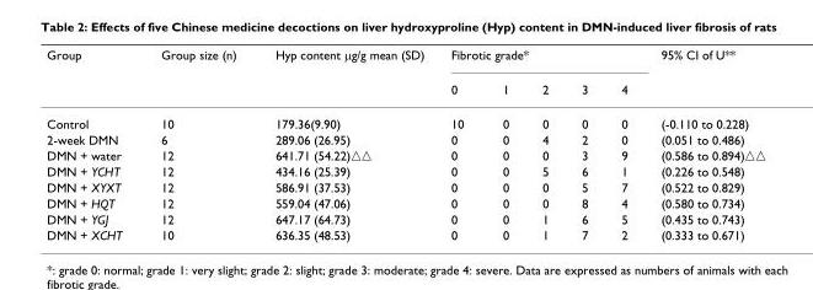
<table><thead><tr><td rowspan="2">Group</td><td rowspan="2">Group size (n)</td><td rowspan="2">Hyp content μg/g mean (SD)</td><td colspan="5">Fibrotic grade*</td><td rowspan="2">95% CI of U**</td></tr><tr><td>0</td><td>1</td><td>2</td><td>3</td><td>4</td></tr></thead><tbody><tr><td>Control</td><td>10</td><td>179.36(9.90)</td><td>10</td><td>0</td><td>0</td><td>0</td><td>0</td><td>(-0.110 to 0.228)</td></tr><tr><td>2-week DMN</td><td>6</td><td>289.06 (26.95)</td><td>0</td><td>0</td><td>4</td><td>2</td><td>0</td><td>(0.051 to 0.486)</td></tr><tr><td>DMN + water</td><td>12</td><td>641.71 (54.22)<sup>△△</sup></td><td>0</td><td>0</td><td>0</td><td>3</td><td>9</td><td>(0.586 to 0.894)<sup>△△</sup></td></tr><tr><td>DMN + YCHT</td><td>12</td><td>434.16 (25.39)</td><td>0</td><td>0</td><td>5</td><td>6</td><td>1</td><td>(0.226 to 0.548)</td></tr><tr><td>DMN + XYXT</td><td>12</td><td>586.91 (37.53)</td><td>0</td><td>0</td><td>0</td><td>5</td><td>7</td><td>(0.522 to 0.829)</td></tr><tr><td>DMN + HQT</td><td>12</td><td>559.04 (47.06)</td><td>0</td><td>0</td><td>0</td><td>8</td><td>4</td><td>(0.580 to 0.734)</td></tr><tr><td>DMN + YGJ</td><td>12</td><td>647.17 (64.73)</td><td>0</td><td>0</td><td>1</td><td>6</td><td>5</td><td>(0.435 to 0.743)</td></tr><tr><td>DMN + XCHT</td><td>10</td><td>636.35 (48.53)</td><td>0</td><td>0</td><td>1</td><td>7</td><td>2</td><td>(0.333 to 0.671)</td></tr></tbody></table>